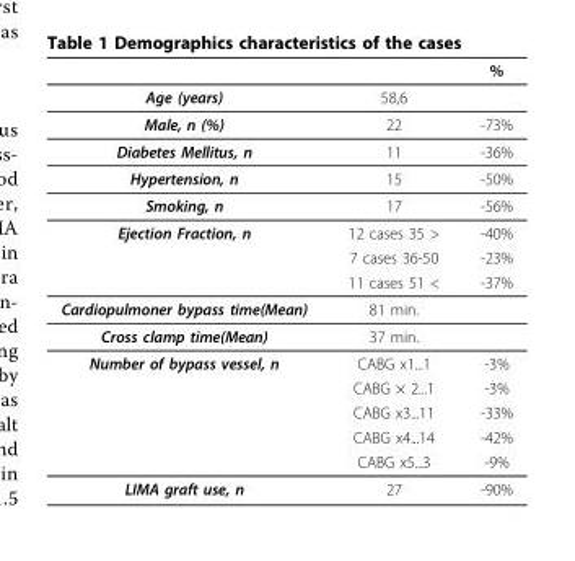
<table><thead><tr><td></td><td></td><td>%</td></tr></thead><tbody><tr><td>Age (years)</td><td>58,6</td><td></td></tr><tr><td>Male, n (%)</td><td>22</td><td>-73%</td></tr><tr><td>Diabetes Mellitus, n</td><td>11</td><td>-36%</td></tr><tr><td>Hypertension, n</td><td>15</td><td>-50%</td></tr><tr><td>Smoking, n</td><td>17</td><td>-56%</td></tr><tr><td rowspan="3">Ejection Fraction, n</td><td>12 cases 35 &gt;</td><td>-40%</td></tr><tr><td>7 cases 36-50</td><td>-23%</td></tr><tr><td>11 cases 51 &lt;</td><td>-37%</td></tr><tr><td>Cardiopulmoner bypass time(Mean)</td><td>81 min.</td><td></td></tr><tr><td>Cross clamp time(Mean)</td><td>37 min.</td><td></td></tr><tr><td rowspan="5">Number of bypass vessel, n</td><td>CABG x1...1</td><td>-3%</td></tr><tr><td>CABG × 2...1</td><td>-3%</td></tr><tr><td>CABG x3...11</td><td>-33%</td></tr><tr><td>CABG x4...14</td><td>-42%</td></tr><tr><td>CABG x5...3</td><td>-9%</td></tr><tr><td>LIMA graft use, n</td><td>27</td><td>-90%</td></tr></tbody></table>